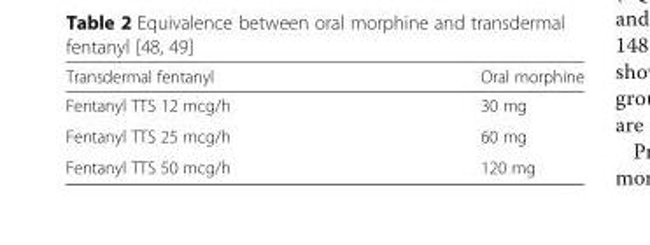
<table><thead><tr><td>Transdermal fentanyl</td><td>Oral morphine</td></tr></thead><tbody><tr><td>Fentanyl TTS 12 mcg/h</td><td>30 mg</td></tr><tr><td>Fentanyl TTS 25 mcg/h</td><td>60 mg</td></tr><tr><td>Fentanyl TTS 50 mcg/h</td><td>120 mg</td></tr></tbody></table>